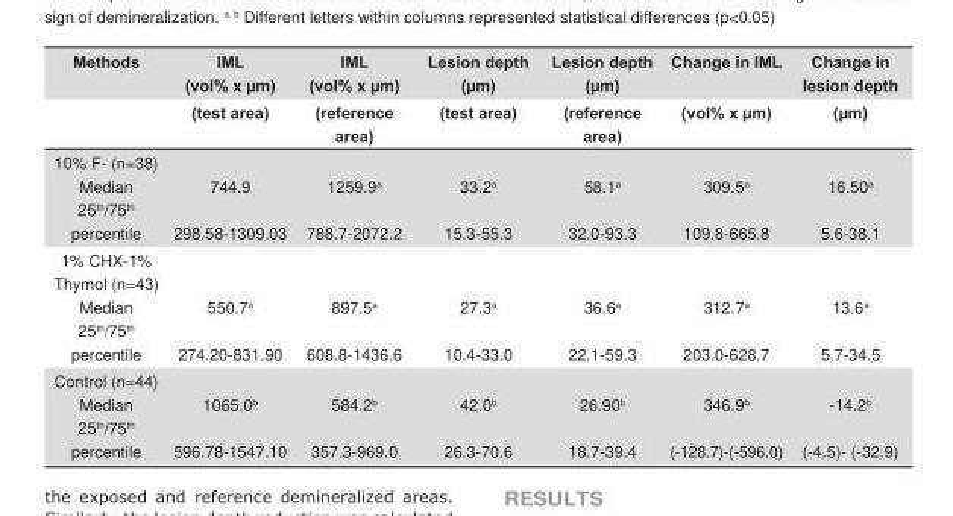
<table><thead><tr><td rowspan="2">Methods</td><td rowspan="2">IML (vol% x μm) (test area)</td><td rowspan="2">IML (vol% x μm) (reference area)</td><td rowspan="2">Lesion depth (μm) (test area)</td><td rowspan="2">Lesion depth (μm) (reference area)</td><td rowspan="2">Change in IML (vol% x μm)</td><td rowspan="2">Change in lesion depth (μm)</td></tr><tr></tr></thead><tbody><tr><td>10% F- (n=38) Median 25<sup>th</sup>/75<sup>th</sup> percentile</td><td>744.9 298.58-1309.03</td><td>1259.9<sup>a</sup> 788.7-2072.2</td><td>33.2<sup>a</sup> 15.3-55.3</td><td>58.1<sup>a</sup> 32.0-93.3</td><td>309.5<sup>a</sup> 109.8-665.8</td><td>16.50<sup>a</sup> 5.6-38.1</td></tr><tr><td>1% CHX-1% Thymol (n=43) Median 25<sup>th</sup>/75<sup>th</sup> percentile</td><td>550.7<sup>a</sup> 274.20-831.90</td><td>897.5<sup>a</sup> 608.8-1436.6</td><td>27.3<sup>a</sup> 10.4-33.0</td><td>36.6<sup>a</sup> 22.1-59.3</td><td>312.7<sup>a</sup> 203.0-628.7</td><td>13.6<sup>a</sup> 5.7-34.5</td></tr><tr><td>Control (n=44) Median 25<sup>th</sup>/75<sup>th</sup> percentile</td><td>1065.0<sup>b</sup> 596.78-1547.10</td><td>584.2<sup>b</sup> 357.3-969.0</td><td>42.0<sup>b</sup> 26.3-70.6</td><td>26.90<sup>b</sup> 18.7-39.4</td><td>346.9<sup>b</sup> (-128.7)-(-596.0)</td><td>-14.2<sup>b</sup> (-4.5)- (-32.9)</td></tr></tbody></table>